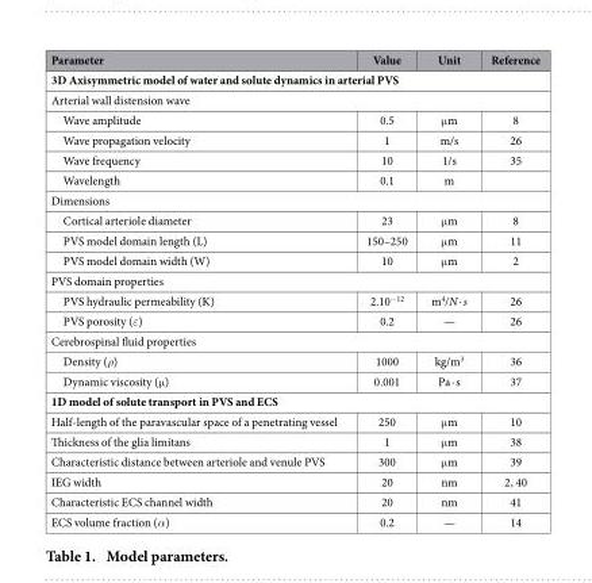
<table><thead><tr><td>Parameter</td><td>Value</td><td>Unit</td><td>Reference</td></tr></thead><tbody><tr><td colspan="4">3D Axisymmetric model of water and solute dynamics in arterial PVS</td></tr><tr><td colspan="4">Arterial wall distension wave</td></tr><tr><td>Wave amplitude</td><td>0.5</td><td>μ m</td><td>8</td></tr><tr><td>Wave propagation velocity</td><td>1</td><td>m/s</td><td>26</td></tr><tr><td>Wave frequency</td><td>10</td><td>1/s</td><td>35</td></tr><tr><td>Wavelength</td><td>0.1</td><td>m</td><td></td></tr><tr><td colspan="4">Dimensions</td></tr><tr><td>Cortical arteriole diameter</td><td>23</td><td>μ m</td><td>8</td></tr><tr><td>PVS model domain length (L)</td><td>150–250</td><td>μ m</td><td>11</td></tr><tr><td>PVS model domain width (W)</td><td>10</td><td>μ m</td><td>2</td></tr><tr><td colspan="4">PVS domain properties</td></tr><tr><td>PVS hydraulic permeability (K)</td><td>2.10<sup>−12</sup></td><td>m<sup>4</sup>/N · s</td><td>26</td></tr><tr><td>PVS porosity (ε)</td><td>0.2</td><td>—</td><td>26</td></tr><tr><td colspan="4">Cerebrospinal fluid properties</td></tr><tr><td>Density (ρ)</td><td>1000</td><td>kg/m<sup>3</sup></td><td>36</td></tr><tr><td>Dynamic viscosity (μ )</td><td>0.001</td><td>Pa · s</td><td>37</td></tr><tr><td colspan="4">1D model of solute transport in PVS and ECS</td></tr><tr><td>Half-length of the paravascular space of a penetrating vessel</td><td>250</td><td>μ m</td><td>10</td></tr><tr><td>Thickness of the glia limitans</td><td>1</td><td>μ m</td><td>38</td></tr><tr><td>Characteristic distance between arteriole and venule PVS</td><td>300</td><td>μ m</td><td>39</td></tr><tr><td>IEG width</td><td>20</td><td>nm</td><td>2, 40</td></tr><tr><td>Characteristic ECS channel width</td><td>20</td><td>nm</td><td>41</td></tr><tr><td>ECS volume fraction (α)</td><td>0.2</td><td>—</td><td>14</td></tr></tbody></table>